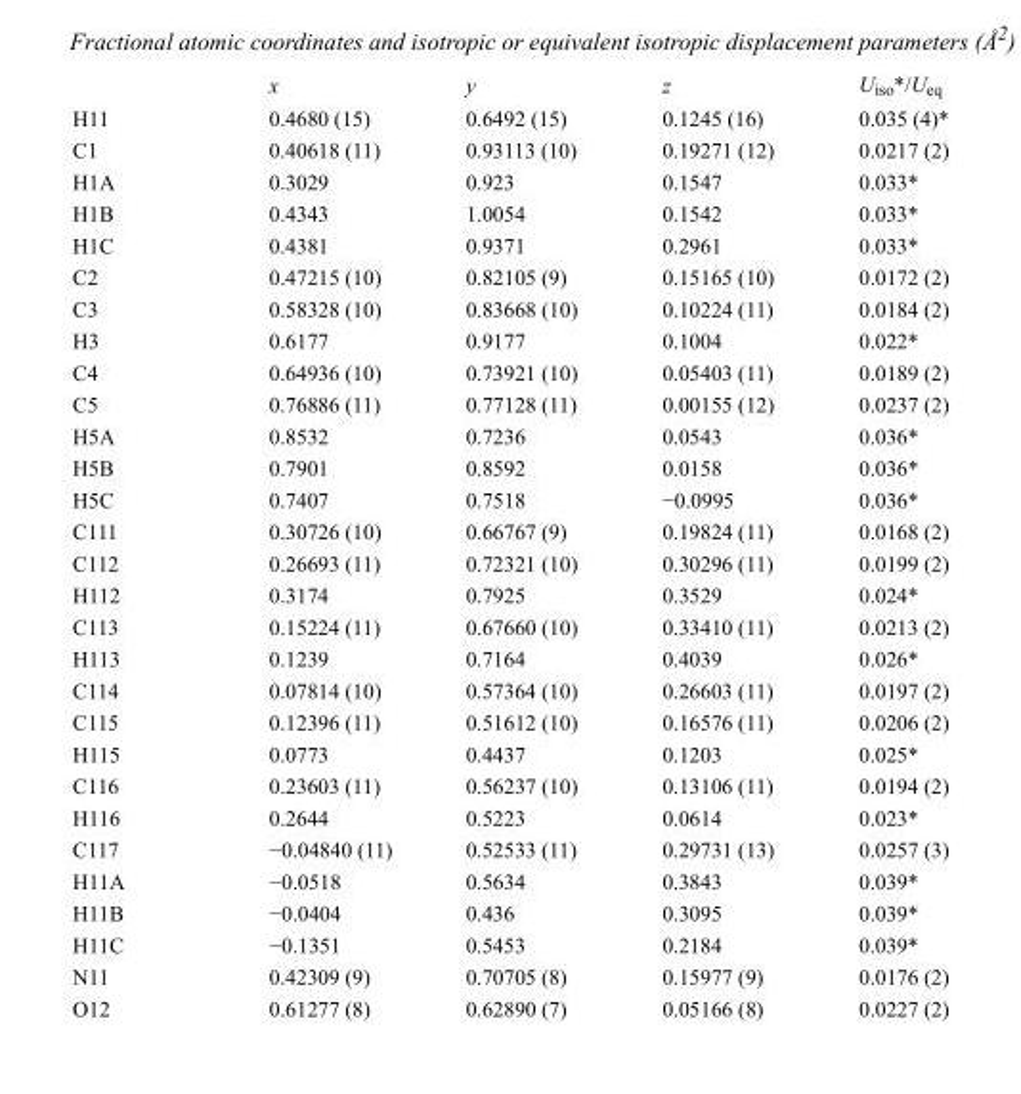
<table><thead><tr><td></td><td>x</td><td>y</td><td>z</td><td>U<sub>iso</sub>*/U<sub>eq</sub></td></tr></thead><tbody><tr><td>H11</td><td>0.4680 (15)</td><td>0.6492 (15)</td><td>0.1245 (16)</td><td>0.035 (4)*</td></tr><tr><td>C1</td><td>0.40618 (11)</td><td>0.93113 (10)</td><td>0.19271 (12)</td><td>0.0217 (2)</td></tr><tr><td>H1A</td><td>0.3029</td><td>0.923</td><td>0.1547</td><td>0.033*</td></tr><tr><td>H1B</td><td>0.4343</td><td>1.0054</td><td>0.1542</td><td>0.033*</td></tr><tr><td>H1C</td><td>0.4381</td><td>0.9371</td><td>0.2961</td><td>0.033*</td></tr><tr><td>C2</td><td>0.47215 (10)</td><td>0.82105 (9)</td><td>0.15165 (10)</td><td>0.0172 (2)</td></tr><tr><td>C3</td><td>0.58328 (10)</td><td>0.83668 (10)</td><td>0.10224 (11)</td><td>0.0184 (2)</td></tr><tr><td>H3</td><td>0.6177</td><td>0.9177</td><td>0.1004</td><td>0.022*</td></tr><tr><td>C4</td><td>0.64936 (10)</td><td>0.73921 (10)</td><td>0.05403 (11)</td><td>0.0189 (2)</td></tr><tr><td>C5</td><td>0.76886 (11)</td><td>0.77128 (11)</td><td>0.00155 (12)</td><td>0.0237 (2)</td></tr><tr><td>H5A</td><td>0.8532</td><td>0.7236</td><td>0.0543</td><td>0.036*</td></tr><tr><td>H5B</td><td>0.7901</td><td>0.8592</td><td>0.0158</td><td>0.036*</td></tr><tr><td>H5C</td><td>0.7407</td><td>0.7518</td><td>−0.0995</td><td>0.036*</td></tr><tr><td>C111</td><td>0.30726 (10)</td><td>0.66767 (9)</td><td>0.19824 (11)</td><td>0.0168 (2)</td></tr><tr><td>C112</td><td>0.26693 (11)</td><td>0.72321 (10)</td><td>0.30296 (11)</td><td>0.0199 (2)</td></tr><tr><td>H112</td><td>0.3174</td><td>0.7925</td><td>0.3529</td><td>0.024*</td></tr><tr><td>C113</td><td>0.15224 (11)</td><td>0.67660 (10)</td><td>0.33410 (11)</td><td>0.0213 (2)</td></tr><tr><td>H113</td><td>0.1239</td><td>0.7164</td><td>0.4039</td><td>0.026*</td></tr><tr><td>C114</td><td>0.07814 (10)</td><td>0.57364 (10)</td><td>0.26603 (11)</td><td>0.0197 (2)</td></tr><tr><td>C115</td><td>0.12396 (11)</td><td>0.51612 (10)</td><td>0.16576 (11)</td><td>0.0206 (2)</td></tr><tr><td>H115</td><td>0.0773</td><td>0.4437</td><td>0.1203</td><td>0.025*</td></tr><tr><td>C116</td><td>0.23603 (11)</td><td>0.56237 (10)</td><td>0.13106 (11)</td><td>0.0194 (2)</td></tr><tr><td>H116</td><td>0.2644</td><td>0.5223</td><td>0.0614</td><td>0.023*</td></tr><tr><td>C117</td><td>−0.04840 (11)</td><td>0.52533 (11)</td><td>0.29731 (13)</td><td>0.0257 (3)</td></tr><tr><td>H11A</td><td>−0.0518</td><td>0.5634</td><td>0.3843</td><td>0.039*</td></tr><tr><td>H11B</td><td>−0.0404</td><td>0.436</td><td>0.3095</td><td>0.039*</td></tr><tr><td>H11C</td><td>−0.1351</td><td>0.5453</td><td>0.2184</td><td>0.039*</td></tr><tr><td>N11</td><td>0.42309 (9)</td><td>0.70705 (8)</td><td>0.15977 (9)</td><td>0.0176 (2)</td></tr><tr><td>O12</td><td>0.61277 (8)</td><td>0.62890 (7)</td><td>0.05166 (8)</td><td>0.0227 (2)</td></tr></tbody></table>